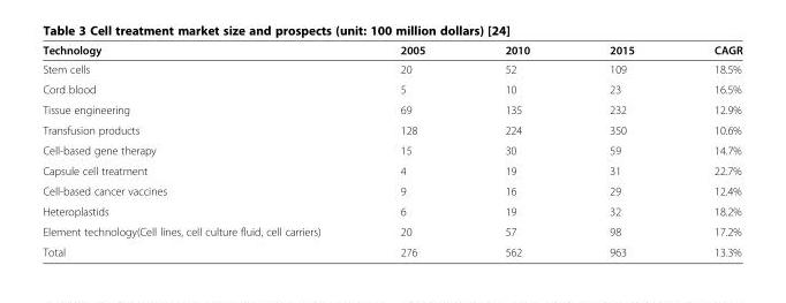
<table><thead><tr><td>Technology</td><td>2005</td><td>2010</td><td>2015</td><td>CAGR</td></tr></thead><tbody><tr><td>Stem cells</td><td>20</td><td>52</td><td>109</td><td>18.5%</td></tr><tr><td>Cord blood</td><td>5</td><td>10</td><td>23</td><td>16.5%</td></tr><tr><td>Tissue engineering</td><td>69</td><td>135</td><td>232</td><td>12.9%</td></tr><tr><td>Transfusion products</td><td>128</td><td>224</td><td>350</td><td>10.6%</td></tr><tr><td>Cell-based gene therapy</td><td>15</td><td>30</td><td>59</td><td>14.7%</td></tr><tr><td>Capsule cell treatment</td><td>4</td><td>19</td><td>31</td><td>22.7%</td></tr><tr><td>Cell-based cancer vaccines</td><td>9</td><td>16</td><td>29</td><td>12.4%</td></tr><tr><td>Heteroplastids</td><td>6</td><td>19</td><td>32</td><td>18.2%</td></tr><tr><td>Element technology(Cell lines, cell culture fluid, cell carriers)</td><td>20</td><td>57</td><td>98</td><td>17.2%</td></tr><tr><td>Total</td><td>276</td><td>562</td><td>963</td><td>13.3%</td></tr></tbody></table>